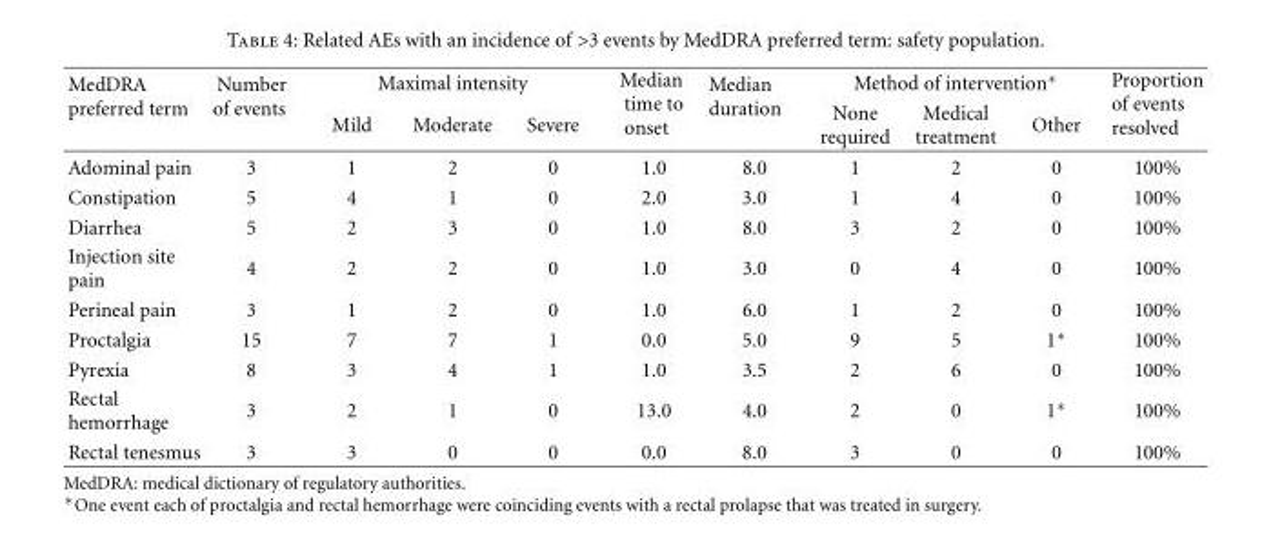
<table><thead><tr><td rowspan="2">MedDRA preferred term</td><td rowspan="2">Number of events</td><td colspan="3">Maximal intensity</td><td rowspan="2">Median time to onset</td><td rowspan="2">Median duration</td><td colspan="3">Method of intervention∗</td><td rowspan="2">Proportion of events resolved</td></tr><tr><td>Mild</td><td>Moderate</td><td>Severe</td><td>None required</td><td>Medical treatment</td><td>Other</td></tr></thead><tbody><tr><td>Adominal pain</td><td>3</td><td>1</td><td>2</td><td>0</td><td>1.0</td><td>8.0</td><td>1</td><td>2</td><td>0</td><td>100%</td></tr><tr><td>Constipation</td><td>5</td><td>4</td><td>1</td><td>0</td><td>2.0</td><td>3.0</td><td>1</td><td>4</td><td>0</td><td>100%</td></tr><tr><td>Diarrhea</td><td>5</td><td>2</td><td>3</td><td>0</td><td>1.0</td><td>8.0</td><td>3</td><td>2</td><td>0</td><td>100%</td></tr><tr><td>Injection site pain</td><td>4</td><td>2</td><td>2</td><td>0</td><td>1.0</td><td>3.0</td><td>0</td><td>4</td><td>0</td><td>100%</td></tr><tr><td>Perineal pain</td><td>3</td><td>1</td><td>2</td><td>0</td><td>1.0</td><td>6.0</td><td>1</td><td>2</td><td>0</td><td>100%</td></tr><tr><td>Proctalgia</td><td>15</td><td>7</td><td>7</td><td>1</td><td>0.0</td><td>5.0</td><td>9</td><td>5</td><td>1∗</td><td>100%</td></tr><tr><td>Pyrexia</td><td>8</td><td>3</td><td>4</td><td>1</td><td>1.0</td><td>3.5</td><td>2</td><td>6</td><td>0</td><td>100%</td></tr><tr><td>Rectal hemorrhage</td><td>3</td><td>2</td><td>1</td><td>0</td><td>13.0</td><td>4.0</td><td>2</td><td>0</td><td>1∗</td><td>100%</td></tr><tr><td>Rectal tenesmus</td><td>3</td><td>3</td><td>0</td><td>0</td><td>0.0</td><td>8.0</td><td>3</td><td>0</td><td>0</td><td>100%</td></tr></tbody></table>